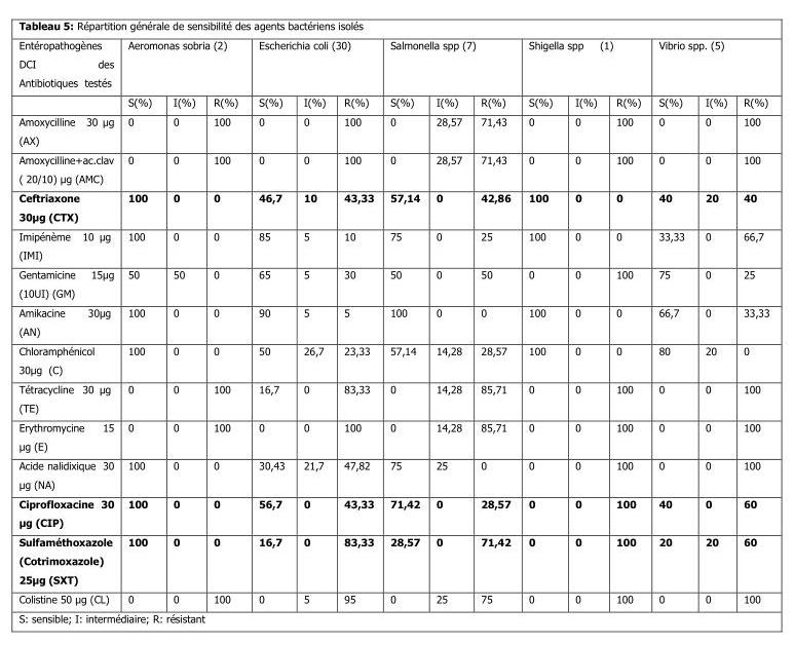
<table><thead><tr><td rowspan="2">Entéropathogènes DCI des Antibiotiques testés</td><td colspan="3">Aeromonas sobria (2)</td><td colspan="3">Escherichia coli (30)</td><td colspan="3">Salmonella spp (7)</td><td colspan="3">Shigella spp (1)</td><td colspan="3">Vibrio spp. (5)</td></tr><tr><td>S(%)</td><td>I(%)</td><td>R(%)</td><td>S(%)</td><td>I(%)</td><td>R(%)</td><td>S(%)</td><td>I(%)</td><td>R(%)</td><td>S(%)</td><td>I(%)</td><td>R(%)</td><td>S(%)</td><td>I(%)</td><td>R(%)</td></tr></thead><tbody><tr><td>Amoxycilline 30 µg (AX)</td><td>0</td><td>0</td><td>100</td><td>0</td><td>0</td><td>100</td><td>0</td><td>28,57</td><td>71,43</td><td>0</td><td>0</td><td>100</td><td>0</td><td>0</td><td>100</td></tr><tr><td>Amoxycilline+ac.clav ( 20/10) µg (AMC)</td><td>0</td><td>0</td><td>100</td><td>0</td><td>0</td><td>100</td><td>0</td><td>28,57</td><td>71,43</td><td>0</td><td>0</td><td>100</td><td>0</td><td>0</td><td>100</td></tr><tr><td>Ceftriaxone 30µg (CTX)</td><td>100</td><td>0</td><td>0</td><td>46,7</td><td>10</td><td>43,33</td><td>57,14</td><td>0</td><td>42,86</td><td>100</td><td>0</td><td>0</td><td>40</td><td>20</td><td>40</td></tr><tr><td>Imipénème 10 µg (IMI)</td><td>100</td><td>0</td><td>0</td><td>85</td><td>5</td><td>10</td><td>75</td><td>0</td><td>25</td><td>100</td><td>0</td><td>0</td><td>33,33</td><td>0</td><td>66,7</td></tr><tr><td>Gentamicine 15µg (10UI) (GM)</td><td>50</td><td>50</td><td>0</td><td>65</td><td>5</td><td>30</td><td>50</td><td>0</td><td>50</td><td>0</td><td>0</td><td>100</td><td>75</td><td>0</td><td>25</td></tr><tr><td>Amikacine 30µg (AN)</td><td>100</td><td>0</td><td>0</td><td>90</td><td>5</td><td>5</td><td>100</td><td>0</td><td>0</td><td>100</td><td>0</td><td>0</td><td>66,7</td><td>0</td><td>33,33</td></tr><tr><td>Chloramphénicol 30µg (C)</td><td>100</td><td>0</td><td>0</td><td>50</td><td>26,7</td><td>23,33</td><td>57,14</td><td>14,28</td><td>28,57</td><td>100</td><td>0</td><td>0</td><td>80</td><td>20</td><td>0</td></tr><tr><td>Tétracycline 30 µg (TE)</td><td>0</td><td>0</td><td>100</td><td>16,7</td><td>0</td><td>83,33</td><td>0</td><td>14,28</td><td>85,71</td><td>0</td><td>0</td><td>100</td><td>0</td><td>0</td><td>100</td></tr><tr><td>Erythromycine 15 µg (E)</td><td>0</td><td>0</td><td>100</td><td>0</td><td>0</td><td>100</td><td>0</td><td>14,28</td><td>85,71</td><td>0</td><td>0</td><td>100</td><td>0</td><td>0</td><td>100</td></tr><tr><td>Acide nalidixique 30 µg (NA)</td><td>100</td><td>0</td><td>0</td><td>30,43</td><td>21,7</td><td>47,82</td><td>75</td><td>25</td><td>0</td><td>0</td><td>0</td><td>100</td><td>0</td><td>0</td><td>100</td></tr><tr><td>Ciprofloxacine 30 µg (CIP)</td><td>100</td><td>0</td><td>0</td><td>56,7</td><td>0</td><td>43,33</td><td>71,42</td><td>0</td><td>28,57</td><td>0</td><td>0</td><td>100</td><td>40</td><td>0</td><td>60</td></tr><tr><td>Sulfaméthoxazole (Cotrimoxazole) 25µg (SXT)</td><td>100</td><td>0</td><td>0</td><td>16,7</td><td>0</td><td>83,33</td><td>28,57</td><td>0</td><td>71,42</td><td>0</td><td>0</td><td>100</td><td>20</td><td>20</td><td>60</td></tr><tr><td>Colistine 50 µg (CL)</td><td>0</td><td>0</td><td>100</td><td>0</td><td>5</td><td>95</td><td>0</td><td>25</td><td>75</td><td>0</td><td>0</td><td>100</td><td>0</td><td>0</td><td>100</td></tr></tbody></table>